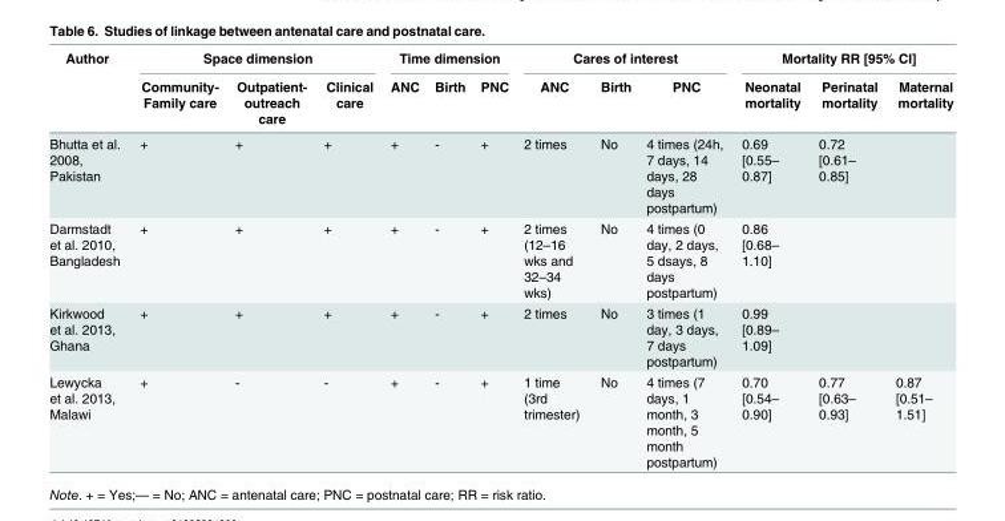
<table><thead><tr><td rowspan="2">Author</td><td colspan="3">Space dimension</td><td colspan="3">Time dimension</td><td colspan="3">Cares of interest</td><td colspan="3">Mortality RR [95% CI]</td></tr><tr><td>Community- Family care</td><td>Outpatient- outreach care</td><td>Clinical care</td><td>ANC</td><td>Birth</td><td>PNC</td><td>ANC</td><td>Birth</td><td>PNC</td><td>Neonatal mortality</td><td>Perinatal mortality</td><td>Maternal mortality</td></tr></thead><tbody><tr><td>Bhutta et al. 2008, Pakistan</td><td>+</td><td>+</td><td>+</td><td>+</td><td>-</td><td>+</td><td>2 times</td><td>No</td><td>4 times (24h, 7 days, 14 days, 28 days postpartum)</td><td>0.69 [0.55– 0.87]</td><td>0.72 [0.61– 0.85]</td><td></td></tr><tr><td>Darmstadt et al. 2010, Bangladesh</td><td>+</td><td>+</td><td>+</td><td>+</td><td>-</td><td>+</td><td>2 times (12–16 wks and 32–34 wks)</td><td>No</td><td>4 times (0 day, 2 days, 5 dsays, 8 days postpartum)</td><td>0.86 [0.68– 1.10]</td><td></td><td></td></tr><tr><td>Kirkwood et al. 2013, Ghana</td><td>+</td><td>+</td><td>+</td><td>+</td><td>-</td><td>+</td><td>2 times</td><td>No</td><td>3 times (1 day, 3 days, 7 days postpartum)</td><td>0.99 [0.89– 1.09]</td><td></td><td></td></tr><tr><td>Lewycka et al. 2013, Malawi</td><td>+</td><td>-</td><td>-</td><td>+</td><td>-</td><td>+</td><td>1 time (3rd trimester)</td><td>No</td><td>4 times (7 days, 1 month, 3 month, 5 month postpartum)</td><td>0.70 [0.54– 0.90]</td><td>0.77 [0.63– 0.93]</td><td>0.87 [0.51– 1.51]</td></tr></tbody></table>